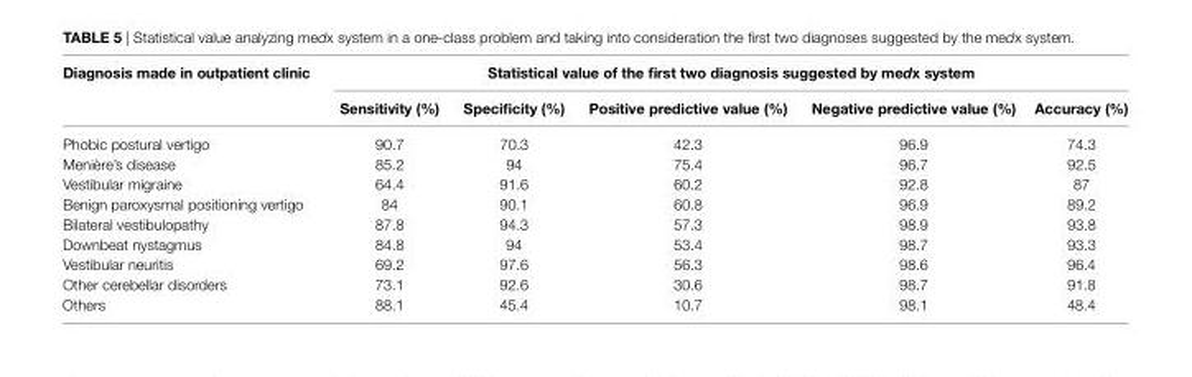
<table><thead><tr><td rowspan="2">Diagnosis made in outpatient clinic</td><td colspan="5">statistical value of the first two diagnosis suggested by medx system</td></tr><tr><td>sensitivity (%)</td><td>specificity (%)</td><td>Positive predictive value (%)</td><td>negative predictive value (%)</td><td>accuracy (%)</td></tr></thead><tbody><tr><td>Phobic postural vertigo</td><td>90.7</td><td>70.3</td><td>42.3</td><td>96.9</td><td>74.3</td></tr><tr><td>Menière’s disease</td><td>85.2</td><td>94</td><td>75.4</td><td>96.7</td><td>92.5</td></tr><tr><td>Vestibular migraine</td><td>64.4</td><td>91.6</td><td>60.2</td><td>92.8</td><td>87</td></tr><tr><td>Benign paroxysmal positioning vertigo</td><td>84</td><td>90.1</td><td>60.8</td><td>96.9</td><td>89.2</td></tr><tr><td>Bilateral vestibulopathy</td><td>87.8</td><td>94.3</td><td>57.3</td><td>98.9</td><td>93.8</td></tr><tr><td>Downbeat nystagmus</td><td>84.8</td><td>94</td><td>53.4</td><td>98.7</td><td>93.3</td></tr><tr><td>Vestibular neuritis</td><td>69.2</td><td>97.6</td><td>56.3</td><td>98.6</td><td>96.4</td></tr><tr><td>Other cerebellar disorders</td><td>73.1</td><td>92.6</td><td>30.6</td><td>98.7</td><td>91.8</td></tr><tr><td>Others</td><td>88.1</td><td>45.4</td><td>10.7</td><td>98.1</td><td>48.4</td></tr></tbody></table>